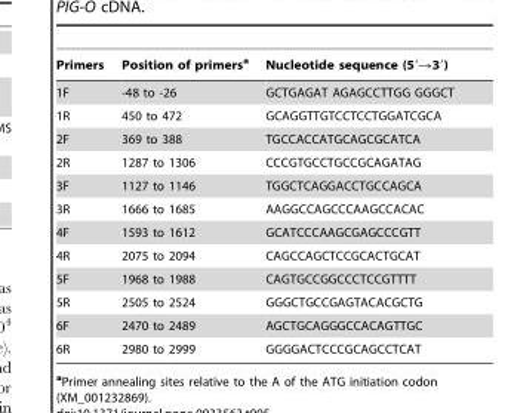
<table><thead><tr><td>Primers</td><td>Position of primers<sup>a</sup></td><td>Nucleotide sequence (5′→3′)</td></tr></thead><tbody><tr><td>1F</td><td>-48 to -26</td><td>GCTGAGAT AGAGCCTTGG GGGCT</td></tr><tr><td>1R</td><td>450 to 472</td><td>GCAGGTTGTCCTCCTGGATCGCA</td></tr><tr><td>2F</td><td>369 to 388</td><td>TGCCACCATGCAGCGCATCA</td></tr><tr><td>2R</td><td>1287 to 1306</td><td>CCCGTGCCTGCCGCAGATAG</td></tr><tr><td>3F</td><td>1127 to 1146</td><td>TGGCTCAGGACCTGCCAGCA</td></tr><tr><td>3R</td><td>1666 to 1685</td><td>AAGGCCAGCCCAAGCCACAC</td></tr><tr><td>4F</td><td>1593 to 1612</td><td>GCATCCCAAGCGAGCCCGTT</td></tr><tr><td>4R</td><td>2075 to 2094</td><td>CAGCCAGCTCCGCACTGCAT</td></tr><tr><td>5F</td><td>1968 to 1988</td><td>CAGTGCCGGCCCTCCGTTTT</td></tr><tr><td>5R</td><td>2505 to 2524</td><td>GGGCTGCCGAGTACACGCTG</td></tr><tr><td>6F</td><td>2470 to 2489</td><td>AGCTGCAGGGCCACAGTTGC</td></tr><tr><td>6R</td><td>2980 to 2999</td><td>GGGGACTCCCGCAGCCTCAT</td></tr></tbody></table>